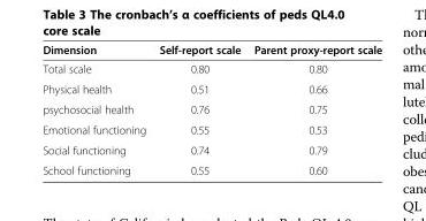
<table><thead><tr><td>Dimension</td><td>Self-report scale</td><td>Parent proxy-report scale</td></tr></thead><tbody><tr><td>Total scale</td><td>0.80</td><td>0.80</td></tr><tr><td>Physical health</td><td>0.51</td><td>0.66</td></tr><tr><td>psychosocial health</td><td>0.76</td><td>0.75</td></tr><tr><td>Emotional functioning</td><td>0.55</td><td>0.53</td></tr><tr><td>Social functioning</td><td>0.74</td><td>0.79</td></tr><tr><td>School functioning</td><td>0.55</td><td>0.60</td></tr></tbody></table>